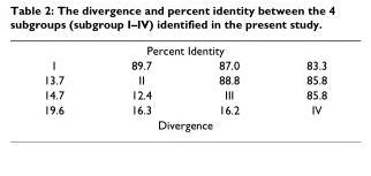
<table><tbody><tr><td colspan="4">Percent Identity</td></tr><tr><td>I</td><td>89.7</td><td>87.0</td><td>83.3</td></tr><tr><td>13.7</td><td>II</td><td>88.8</td><td>85.8</td></tr><tr><td>14.7</td><td>12.4</td><td>III</td><td>85.8</td></tr><tr><td>19.6</td><td>16.3</td><td>16.2</td><td>IV</td></tr><tr><td colspan="4">Divergence</td></tr></tbody></table>